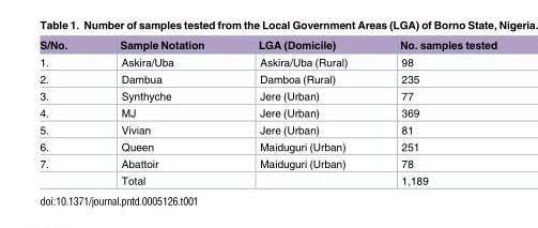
<table><thead><tr><td>S/No.</td><td>Sample Notation</td><td>LGA (Domicile)</td><td>No. samples tested</td></tr></thead><tbody><tr><td>1.</td><td>Askira/Uba</td><td>Askira/Uba (Rural)</td><td>98</td></tr><tr><td>2.</td><td>Dambua</td><td>Damboa (Rural)</td><td>235</td></tr><tr><td>3.</td><td>Synthyche</td><td>Jere (Urban)</td><td>77</td></tr><tr><td>4.</td><td>MJ</td><td>Jere (Urban)</td><td>369</td></tr><tr><td>5.</td><td>Vivian</td><td>Jere (Urban)</td><td>81</td></tr><tr><td>6.</td><td>Queen</td><td>Maiduguri (Urban)</td><td>251</td></tr><tr><td rowspan="2">7.</td><td>Abattoir</td><td>Maiduguri (Urban)</td><td>78</td></tr><tr><td>Total</td><td></td><td>1,189</td></tr></tbody></table>